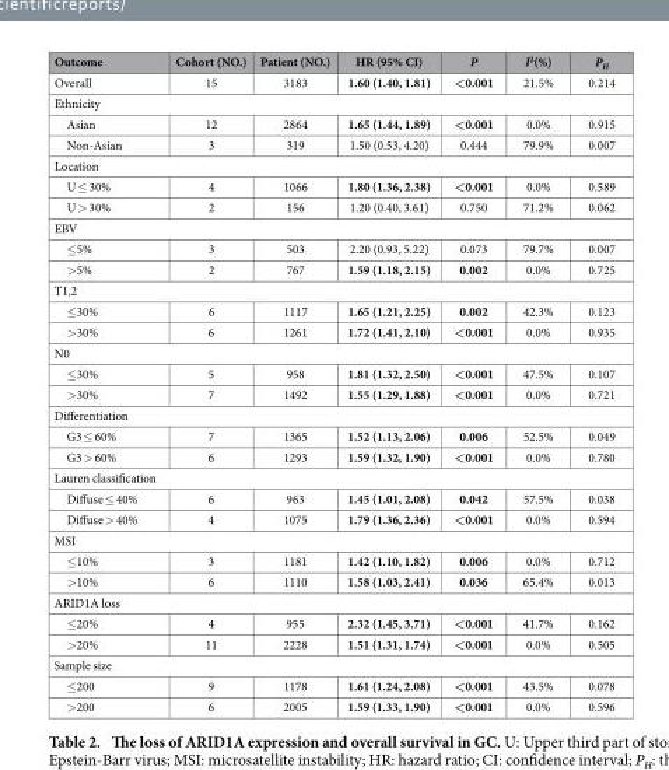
<table><thead><tr><td>Outcome</td><td>Cohort (NO.)</td><td>Patient (NO.)</td><td>HR (95% CI)</td><td>P</td><td>I<sup>2</sup>(%)</td><td>P<sub>H</sub></td></tr></thead><tbody><tr><td>Overall</td><td>15</td><td>3183</td><td>1.60 (1.40, 1.81)</td><td>&lt; 0.001</td><td>21.5%</td><td>0.214</td></tr><tr><td colspan="7">Ethnicity</td></tr><tr><td>Asian</td><td>12</td><td>2864</td><td>1.65 (1.44, 1.89)</td><td>&lt; 0.001</td><td>0.0%</td><td>0.915</td></tr><tr><td>Non-Asian</td><td>3</td><td>319</td><td>1.50 (0.53, 4.20)</td><td>0.444</td><td>79.9%</td><td>0.007</td></tr><tr><td colspan="7">Location</td></tr><tr><td>U ≤ 30%</td><td>4</td><td>1066</td><td>1.80 (1.36, 2.38)</td><td>&lt; 0.001</td><td>0.0%</td><td>0.589</td></tr><tr><td>U &gt; 30%</td><td>2</td><td>156</td><td>1.20 (0.40, 3.61)</td><td>0.750</td><td>71.2%</td><td>0.062</td></tr><tr><td colspan="7">EBV</td></tr><tr><td>≤ 5%</td><td>3</td><td>503</td><td>2.20 (0.93, 5.22)</td><td>0.073</td><td>79.7%</td><td>0.007</td></tr><tr><td>&gt; 5%</td><td>2</td><td>767</td><td>1.59 (1.18, 2.15)</td><td>0.002</td><td>0.0%</td><td>0.725</td></tr><tr><td colspan="7">T1,2</td></tr><tr><td>≤ 30%</td><td>6</td><td>1117</td><td>1.65 (1.21, 2.25)</td><td>0.002</td><td>42.3%</td><td>0.123</td></tr><tr><td>&gt; 30%</td><td>6</td><td>1261</td><td>1.72 (1.41, 2.10)</td><td>&lt; 0.001</td><td>0.0%</td><td>0.935</td></tr><tr><td colspan="7">N0</td></tr><tr><td>≤ 30%</td><td>5</td><td>958</td><td>1.81 (1.32, 2.50)</td><td>&lt; 0.001</td><td>47.5%</td><td>0.107</td></tr><tr><td>&gt; 30%</td><td>7</td><td>1492</td><td>1.55 (1.29, 1.88)</td><td>&lt; 0.001</td><td>0.0%</td><td>0.721</td></tr><tr><td colspan="7">Differentiation</td></tr><tr><td>G3 ≤ 60%</td><td>7</td><td>1365</td><td>1.52 (1.13, 2.06)</td><td>0.006</td><td>52.5%</td><td>0.049</td></tr><tr><td>G3 &gt; 60%</td><td>6</td><td>1293</td><td>1.59 (1.32, 1.90)</td><td>&lt; 0.001</td><td>0.0%</td><td>0.780</td></tr><tr><td colspan="7">Lauren classification</td></tr><tr><td>Diffuse ≤ 40%</td><td>6</td><td>963</td><td>1.45 (1.01, 2.08)</td><td>0.042</td><td>57.5%</td><td>0.038</td></tr><tr><td>Diffuse &gt; 40%</td><td>4</td><td>1075</td><td>1.79 (1.36, 2.36)</td><td>&lt; 0.001</td><td>0.0%</td><td>0.594</td></tr><tr><td colspan="7">MSI</td></tr><tr><td>≤ 10%</td><td>3</td><td>1181</td><td>1.42 (1.10, 1.82)</td><td>0.006</td><td>0.0%</td><td>0.712</td></tr><tr><td>&gt; 10%</td><td>6</td><td>1110</td><td>1.58 (1.03, 2.41)</td><td>0.036</td><td>65.4%</td><td>0.013</td></tr><tr><td colspan="7">ARID1A loss</td></tr><tr><td>≤ 20%</td><td>4</td><td>955</td><td>2.32 (1.45, 3.71)</td><td>&lt; 0.001</td><td>41.7%</td><td>0.162</td></tr><tr><td>&gt; 20%</td><td>11</td><td>2228</td><td>1.51 (1.31, 1.74)</td><td>&lt; 0.001</td><td>0.0%</td><td>0.505</td></tr><tr><td colspan="7">Sample size</td></tr><tr><td>≤ 200</td><td>9</td><td>1178</td><td>1.61 (1.24, 2.08)</td><td>&lt; 0.001</td><td>43.5%</td><td>0.078</td></tr><tr><td>&gt; 200</td><td>6</td><td>2005</td><td>1.59 (1.33, 1.90)</td><td>&lt; 0.001</td><td>0.0%</td><td>0.596</td></tr></tbody></table>